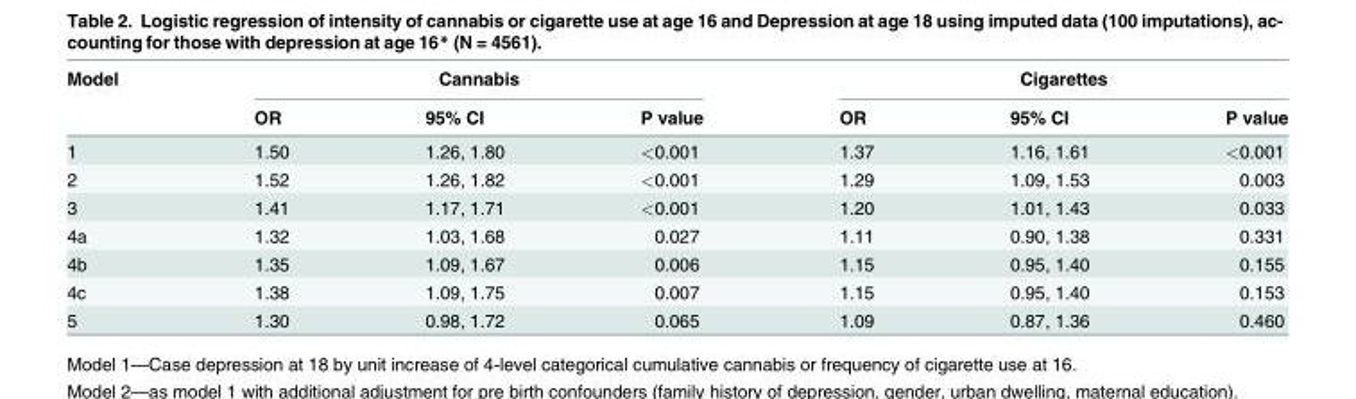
<table><thead><tr><td rowspan="2">Model</td><td colspan="3">Cannabis</td><td colspan="3">Cigarettes</td></tr><tr><td>OR</td><td>95% CI</td><td>P value</td><td>OR</td><td>95% CI</td><td>P value</td></tr></thead><tbody><tr><td>1</td><td>1.50</td><td>1.26, 1.80</td><td>&lt;0.001</td><td>1.37</td><td>1.16, 1.61</td><td>&lt;0.001</td></tr><tr><td>2</td><td>1.52</td><td>1.26, 1.82</td><td>&lt;0.001</td><td>1.29</td><td>1.09, 1.53</td><td>0.003</td></tr><tr><td>3</td><td>1.41</td><td>1.17, 1.71</td><td>&lt;0.001</td><td>1.20</td><td>1.01, 1.43</td><td>0.033</td></tr><tr><td>4a</td><td>1.32</td><td>1.03, 1.68</td><td>0.027</td><td>1.11</td><td>0.90, 1.38</td><td>0.331</td></tr><tr><td>4b</td><td>1.35</td><td>1.09, 1.67</td><td>0.006</td><td>1.15</td><td>0.95, 1.40</td><td>0.155</td></tr><tr><td>4c</td><td>1.38</td><td>1.09, 1.75</td><td>0.007</td><td>1.15</td><td>0.95, 1.40</td><td>0.153</td></tr><tr><td>5</td><td>1.30</td><td>0.98, 1.72</td><td>0.065</td><td>1.09</td><td>0.87, 1.36</td><td>0.460</td></tr></tbody></table>